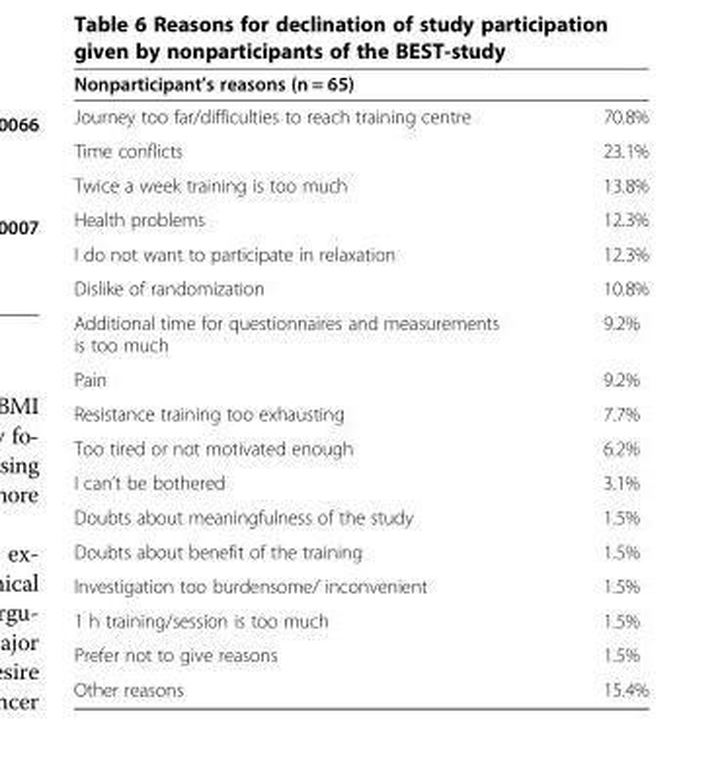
<table><thead><tr><td colspan="2">Nonparticipant’s reasons (n = 65)</td></tr><tr><td>Journey too far/difficulties to reach training centre</td><td>70.8%</td></tr></thead><tbody><tr><td>Time conflicts</td><td>23.1%</td></tr><tr><td>Twice a week training is too much</td><td>13.8%</td></tr><tr><td>Health problems</td><td>12.3%</td></tr><tr><td>I do not want to participate in relaxation</td><td>12.3%</td></tr><tr><td>Dislike of randomization</td><td>10.8%</td></tr><tr><td>Additional time for questionnaires and measurements is too much</td><td>9.2%</td></tr><tr><td>Pain</td><td>9.2%</td></tr><tr><td>Resistance training too exhausting</td><td>7.7%</td></tr><tr><td>Too tired or not motivated enough</td><td>6.2%</td></tr><tr><td>I can’t be bothered</td><td>3.1%</td></tr><tr><td>Doubts about meaningfulness of the study</td><td>1.5%</td></tr><tr><td>Doubts about benefit of the training</td><td>1.5%</td></tr><tr><td>Investigation too burdensome/ inconvenient</td><td>1.5%</td></tr><tr><td>1 h training/session is too much</td><td>1.5%</td></tr><tr><td>Prefer not to give reasons</td><td>1.5%</td></tr><tr><td>Other reasons</td><td>15.4%</td></tr></tbody></table>